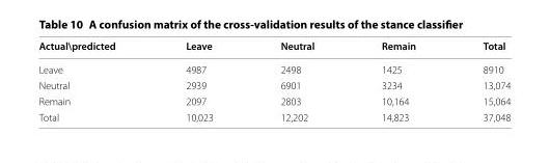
<table><thead><tr><td>Actual\predicted</td><td>Leave</td><td>Neutral</td><td>Remain</td><td>Total</td></tr></thead><tbody><tr><td>Leave</td><td>4987</td><td>2498</td><td>1425</td><td>8910</td></tr><tr><td>Neutral</td><td>2939</td><td>6901</td><td>3234</td><td>13,074</td></tr><tr><td>Remain</td><td>2097</td><td>2803</td><td>10,164</td><td>15,064</td></tr><tr><td>Total</td><td>10,023</td><td>12,202</td><td>14,823</td><td>37,048</td></tr></tbody></table>